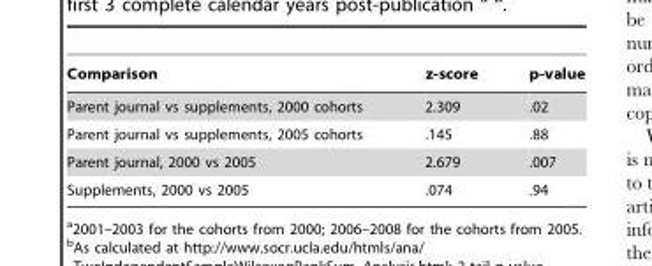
<table><thead><tr><td>Comparison</td><td>z-score</td><td>p-value</td></tr></thead><tbody><tr><td>Parent journal vs supplements, 2000 cohorts</td><td>2.309</td><td>.02</td></tr><tr><td>Parent journal vs supplements, 2005 cohorts</td><td>.145</td><td>.88</td></tr><tr><td>Parent journal, 2000 vs 2005</td><td>2.679</td><td>.007</td></tr><tr><td>Supplements, 2000 vs 2005</td><td>.074</td><td>.94</td></tr></tbody></table>